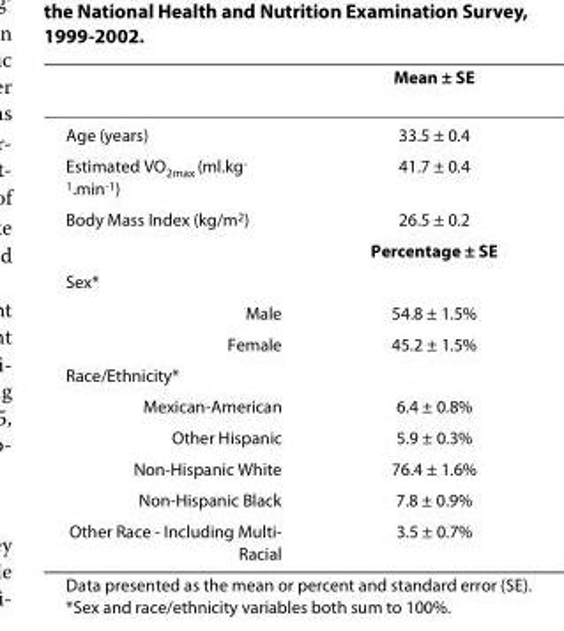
<table><thead><tr><td></td><td>Mean ± SE</td></tr></thead><tbody><tr><td>Age (years)</td><td>33.5 ± 0.4</td></tr><tr><td>Estimated VO<sub>2max</sub> (ml.kg<sup>- 1</sup>.min<sup>-1</sup>)</td><td>41.7 ± 0.4</td></tr><tr><td rowspan="2">Body Mass Index (kg/m<sup>2</sup>)</td><td>26.5 ± 0.2</td></tr><tr><td>Percentage ± SE</td></tr><tr><td colspan="2">Sex*</td></tr><tr><td>Male</td><td>54.8 ± 1.5%</td></tr><tr><td>Female</td><td>45.2 ± 1.5%</td></tr><tr><td colspan="2">Race/Ethnicity*</td></tr><tr><td>Mexican-American</td><td>6.4 ± 0.8%</td></tr><tr><td>Other Hispanic</td><td>5.9 ± 0.3%</td></tr><tr><td>Non-Hispanic White</td><td>76.4 ± 1.6%</td></tr><tr><td>Non-Hispanic Black</td><td>7.8 ± 0.9%</td></tr><tr><td>Other Race - Including Multi- Racial</td><td>3.5 ± 0.7%</td></tr></tbody></table>